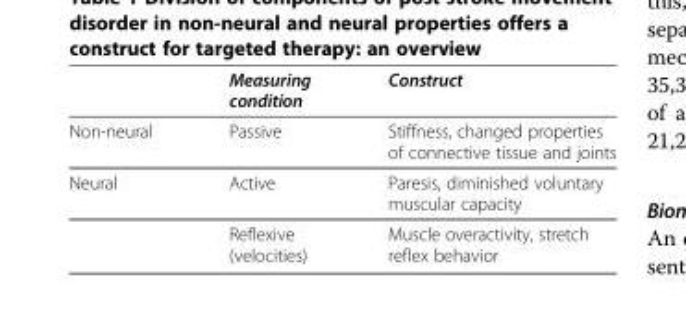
<table><thead><tr><td></td><td>Measuring condition</td><td>Construct</td></tr></thead><tbody><tr><td>Non-neural</td><td>Passive</td><td>Stiffness, changed properties of connective tissue and joints</td></tr><tr><td rowspan="2">Neural</td><td>Active</td><td>Paresis, diminished voluntary muscular capacity</td></tr><tr><td>Reflexive (velocities)</td><td>Muscle overactivity, stretch reflex behavior</td></tr></tbody></table>